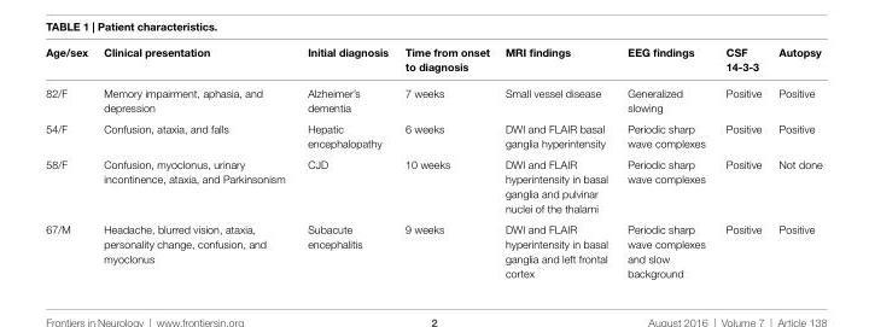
<table><thead><tr><td>age/sex</td><td>Clinical presentation</td><td>Initial diagnosis</td><td>time from onset to diagnosis</td><td>MRI findings</td><td>eeG findings</td><td>CsF 14-3-3</td><td>autopsy</td></tr></thead><tbody><tr><td>82/F</td><td>Memory impairment, aphasia, and depression</td><td>Alzheimer’s dementia</td><td>7 weeks</td><td>Small vessel disease</td><td>Generalized slowing</td><td>Positive</td><td>Positive</td></tr><tr><td>54/F</td><td>Confusion, ataxia, and falls</td><td>Hepatic encephalopathy</td><td>6 weeks</td><td>DWI and FLAIR basal ganglia hyperintensity</td><td>Periodic sharp wave complexes</td><td>Positive</td><td>Positive</td></tr><tr><td>58/F</td><td>Confusion, myoclonus, urinary incontinence, ataxia, and Parkinsonism</td><td>CJD</td><td>10 weeks</td><td>DWI and FLAIR hyperintensity in basal ganglia and pulvinar nuclei of the thalami</td><td>Periodic sharp wave complexes</td><td>Positive</td><td>Not done</td></tr><tr><td>67/M</td><td>Headache, blurred vision, ataxia, personality change, confusion, and myoclonus</td><td>Subacute encephalitis</td><td>9 weeks</td><td>DWI and FLAIR hyperintensity in basal ganglia and left frontal cortex</td><td>Periodic sharp wave complexes and slow background</td><td>Positive</td><td>Positive</td></tr></tbody></table>